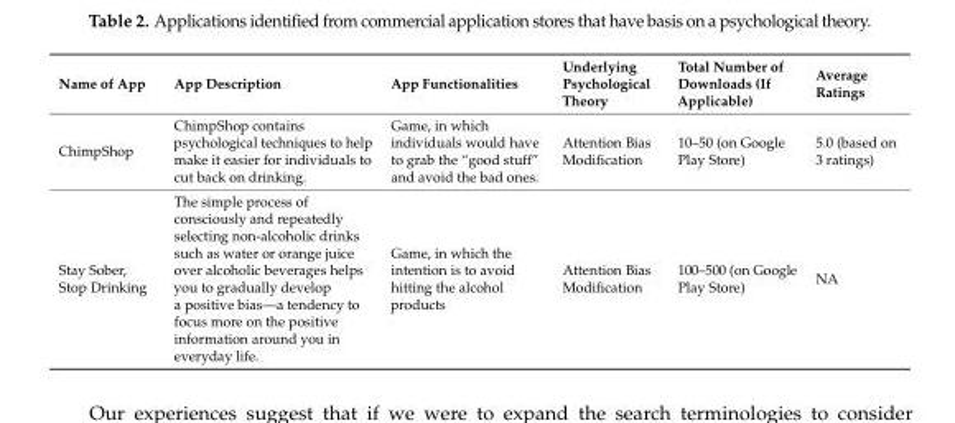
<table><thead><tr><td>Name of App</td><td>App Description</td><td>App Functionalities</td><td>Underlying Psychological Theory</td><td>Total Number of Downloads (If Applicable)</td><td>Average Ratings</td></tr></thead><tbody><tr><td>ChimpShop</td><td>ChimpShop contains psychological techniques to help make it easier for individuals to cut back on drinking.</td><td>Game, in which individuals would have to grab the “good stuff” and avoid the bad ones.</td><td>Attention Bias Modification</td><td>10–50 (on Google Play Store)</td><td>5.0 (based on 3 ratings)</td></tr><tr><td>Stay Sober, Stop Drinking</td><td>The simple process of consciously and repeatedly selecting non-alcoholic drinks such as water or orange juice over alcoholic beverages helps you to gradually develop a positive bias—a tendency to focus more on the positive information around you in everyday life.</td><td>Game, in which the intention is to avoid hitting the alcohol products</td><td>Attention Bias Modification</td><td>100–500 (on Google Play Store)</td><td>NA</td></tr></tbody></table>